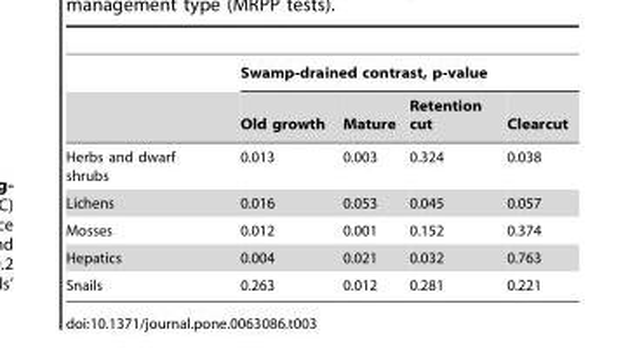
<table><thead><tr><td rowspan="2"></td><td colspan="4">Swamp-drained contrast, p-value</td></tr><tr><td>Old growth</td><td>Mature</td><td>Retention cut</td><td>Clearcut</td></tr></thead><tbody><tr><td>Herbs and dwarf shrubs</td><td>0.013</td><td>0.003</td><td>0.324</td><td>0.038</td></tr><tr><td>Lichens</td><td>0.016</td><td>0.053</td><td>0.045</td><td>0.057</td></tr><tr><td>Mosses</td><td>0.012</td><td>0.001</td><td>0.152</td><td>0.374</td></tr><tr><td>Hepatics</td><td>0.004</td><td>0.021</td><td>0.032</td><td>0.763</td></tr><tr><td>Snails</td><td>0.263</td><td>0.012</td><td>0.281</td><td>0.221</td></tr></tbody></table>